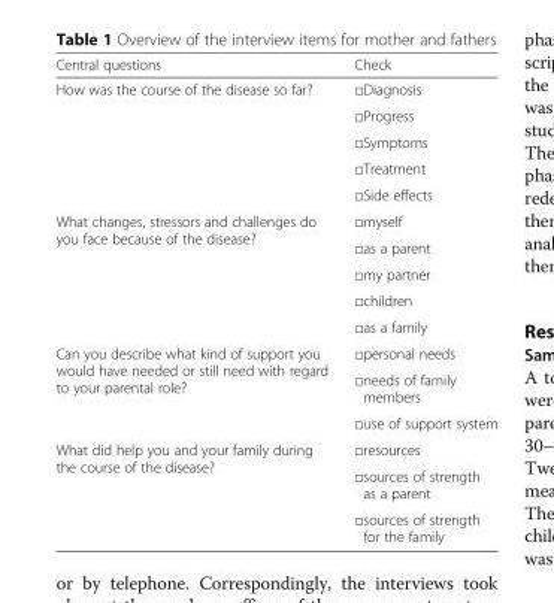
<table><thead><tr><td>Central questions</td><td>Check</td></tr></thead><tbody><tr><td rowspan="5">How was the course of the disease so far?</td><td>□Diagnosis</td></tr><tr><td>□Progress</td></tr><tr><td>□Symptoms</td></tr><tr><td>□Treatment</td></tr><tr><td>□Side effects</td></tr><tr><td rowspan="5">What changes, stressors and challenges do you face because of the disease?</td><td>□myself</td></tr><tr><td>□as a parent</td></tr><tr><td>□my partner</td></tr><tr><td>□children</td></tr><tr><td>□as a family</td></tr><tr><td rowspan="3">Can you describe what kind of support you would have needed or still need with regard to your parental role?</td><td>□personal needs</td></tr><tr><td>□needs of family members</td></tr><tr><td>□use of support system</td></tr><tr><td rowspan="3">What did help you and your family during the course of the disease?</td><td>□resources</td></tr><tr><td>□sources of strength as a parent</td></tr><tr><td>□sources of strength for the family</td></tr></tbody></table>